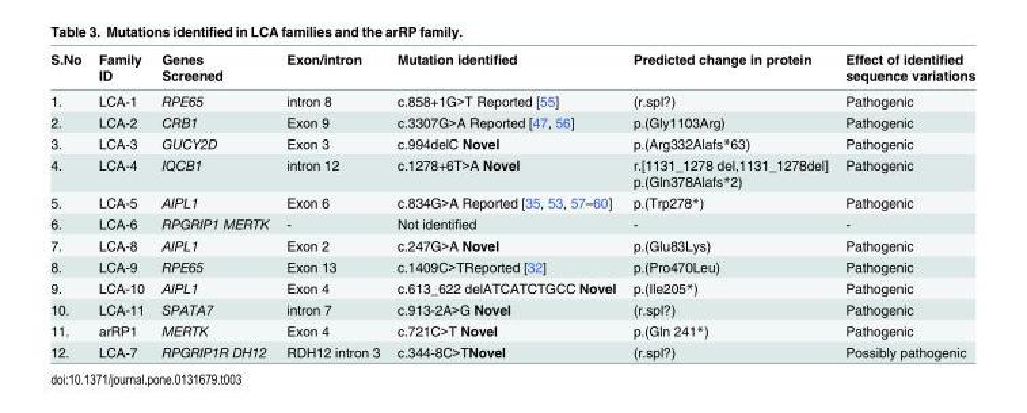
<table><thead><tr><td>S.No</td><td>Family ID</td><td>Genes Screened</td><td>Exon/intron</td><td>Mutation identified</td><td>Predicted change in protein</td><td>Effect of identified sequence variations</td></tr></thead><tbody><tr><td>1.</td><td>LCA-1</td><td>RPE65</td><td>intron 8</td><td>c.858+1G&gt;T Reported [55]</td><td>(r.spl?)</td><td>Pathogenic</td></tr><tr><td>2.</td><td>LCA-2</td><td>CRB1</td><td>Exon 9</td><td>c.3307G&gt;A Reported [47, 56]</td><td>p.(Gly1103Arg)</td><td>Pathogenic</td></tr><tr><td>3.</td><td>LCA-3</td><td>GUCY2D</td><td>Exon 3</td><td>c.994delC Novel</td><td>p.(Arg332Alafs*63)</td><td>Pathogenic</td></tr><tr><td>4.</td><td>LCA-4</td><td>IQCB1</td><td>intron 12</td><td>c.1278+6T&gt;A Novel</td><td>r.[1131_1278 del,1131_1278del] p.(Gln378Alafs*2)</td><td>Pathogenic</td></tr><tr><td>5.</td><td>LCA-5</td><td>AIPL1</td><td>Exon 6</td><td>c.834G&gt;A Reported [35, 53, 57–60]</td><td>p.(Trp278*)</td><td>Pathogenic</td></tr><tr><td>6.</td><td>LCA-6</td><td>RPGRIP1 MERTK</td><td>-</td><td>Not identified</td><td>-</td><td>-</td></tr><tr><td>7.</td><td>LCA-8</td><td>AIPL1</td><td>Exon 2</td><td>c.247G&gt;A Novel</td><td>p.(Glu83Lys)</td><td>Pathogenic</td></tr><tr><td>8.</td><td>LCA-9</td><td>RPE65</td><td>Exon 13</td><td>c.1409C&gt;TReported [32]</td><td>p.(Pro470Leu)</td><td>Pathogenic</td></tr><tr><td>9.</td><td>LCA-10</td><td>AIPL1</td><td>Exon 4</td><td>c.613_622 delATCATCTGCC Novel</td><td>p.(Ile205*)</td><td>Pathogenic</td></tr><tr><td>10.</td><td>LCA-11</td><td>SPATA7</td><td>intron 7</td><td>c.913-2A&gt;G Novel</td><td>(r.spl?)</td><td>Pathogenic</td></tr><tr><td>11.</td><td>arRP1</td><td>MERTK</td><td>Exon 4</td><td>c.721C&gt;T Novel</td><td>p.(Gln 241*)</td><td>Pathogenic</td></tr><tr><td>12.</td><td>LCA-7</td><td>RPGRIP1R DH12</td><td>RDH12 intron 3</td><td>c.344-8C&gt;TNovel</td><td>(r.spl?)</td><td>Possibly pathogenic</td></tr></tbody></table>